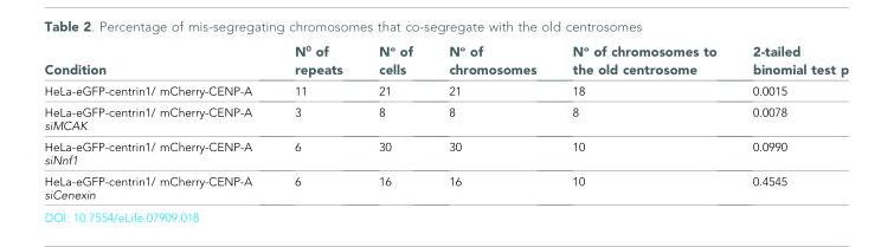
<table><thead><tr><td>Condition</td><td>N<sup>0</sup> of repeats</td><td>N<sup>o</sup> of cells</td><td>N<sup>o</sup> of chromosomes</td><td>N<sup>o</sup> of chromosomes to the old centrosome</td><td>2-tailed binomial test p</td></tr></thead><tbody><tr><td>HeLa-eGFP-centrin1/ mCherry-CENP-A</td><td>11</td><td>21</td><td>21</td><td>18</td><td>0.0015</td></tr><tr><td>HeLa-eGFP-centrin1/ mCherry-CENP-A siMCAK</td><td>3</td><td>8</td><td>8</td><td>8</td><td>0.0078</td></tr><tr><td>HeLa-eGFP-centrin1/ mCherry-CENP-A siNnf1</td><td>6</td><td>30</td><td>30</td><td>10</td><td>0.0990</td></tr><tr><td>HeLa-eGFP-centrin1/ mCherry-CENP-A siCenexin</td><td>6</td><td>16</td><td>16</td><td>10</td><td>0.4545</td></tr></tbody></table>